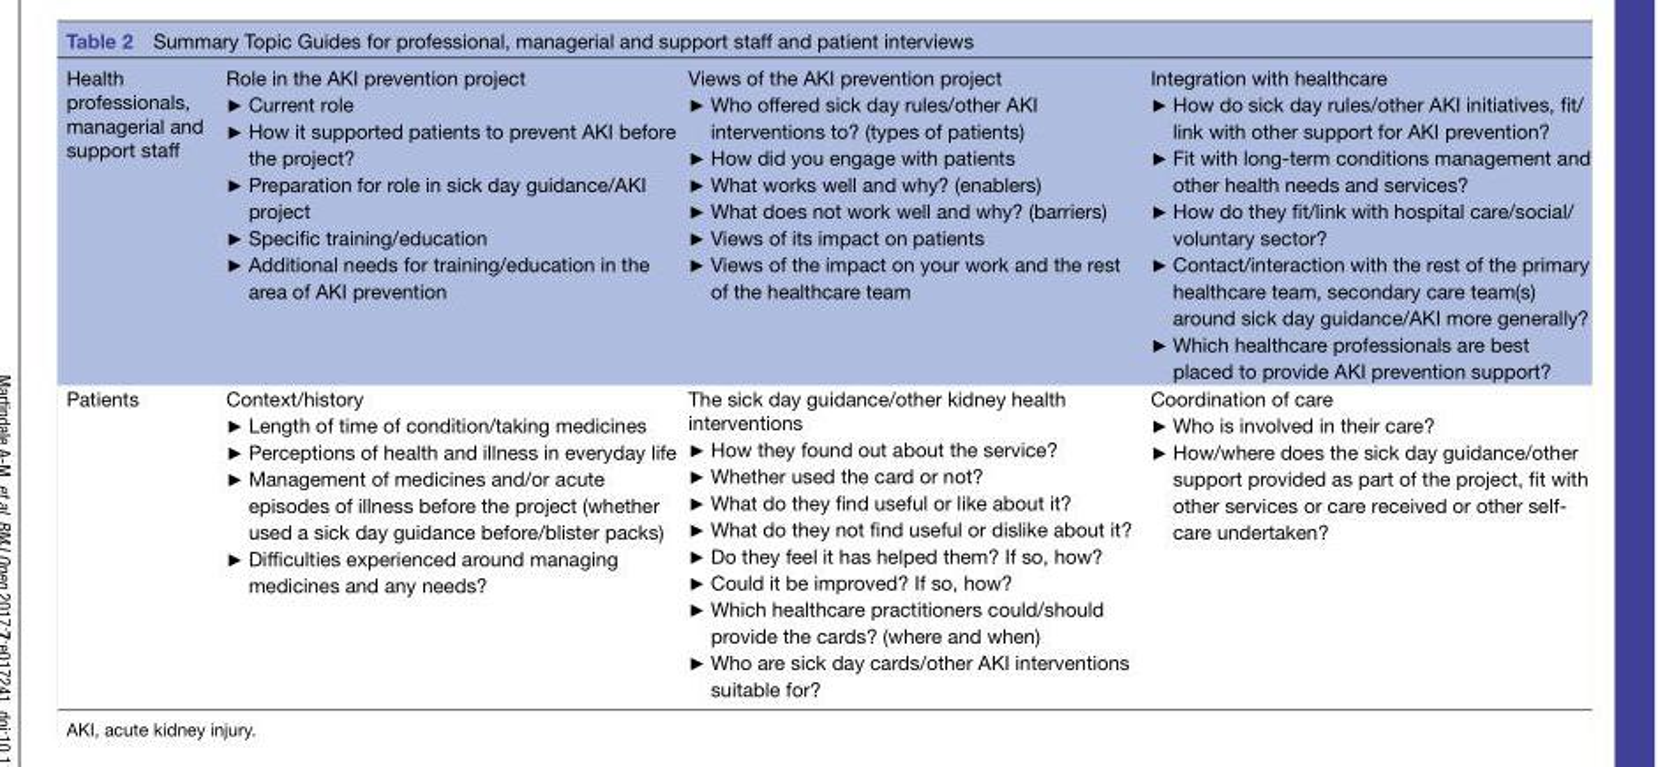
<table><tbody><tr><td>Health professionals, managerial and support staff</td><td>Role in the AKI prevention project ► Current role ► How it supported patients to prevent AKI before the project? ► Preparation for role in sick day guidance/AKI project ► Specific training/education ► Additional needs for training/education in the area of AKI prevention</td><td>Views of the AKI prevention project ► Who offered sick day rules/other AKI interventions to? (types of patients) ► How did you engage with patients ► What works well and why? (enablers) ► What does not work well and why? (barriers) ► Views of its impact on patients ► Views of the impact on your work and the rest of the healthcare team</td><td>Integration with healthcare ► How do sick day rules/other AKI initiatives, fit/ link with other support for AKI prevention? ► Fit with long-term conditions management and other health needs and services? ► How do they fit/link with hospital care/social/ voluntary sector? ► Contact/interaction with the rest of the primary healthcare team, secondary care team(s) around sick day guidance/AKI more generally? ► Which healthcare professionals are best placed to provide AKI prevention support?</td></tr><tr><td>Patients</td><td>Context/history ► Length of time of condition/taking medicines ► Perceptions of health and illness in everyday life ► Management of medicines and/or acute episodes of illness before the project (whether used a sick day guidance before/blister packs) ► Difficulties experienced around managing medicines and any needs?</td><td>The sick day guidance/other kidney health interventions ► How they found out about the service? ► Whether used the card or not? ► What do they find useful or like about it? ► What do they not find useful or dislike about it? ► Do they feel it has helped them? If so, how? ► Could it be improved? If so, how? ► Which healthcare practitioners could/should provide the cards? (where and when) ► Who are sick day cards/other AKI interventions suitable for?</td><td>Coordination of care ► Who is involved in their care? ► How/where does the sick day guidance/other support provided as part of the project, fit with other services or care received or other self- care undertaken?</td></tr></tbody></table>